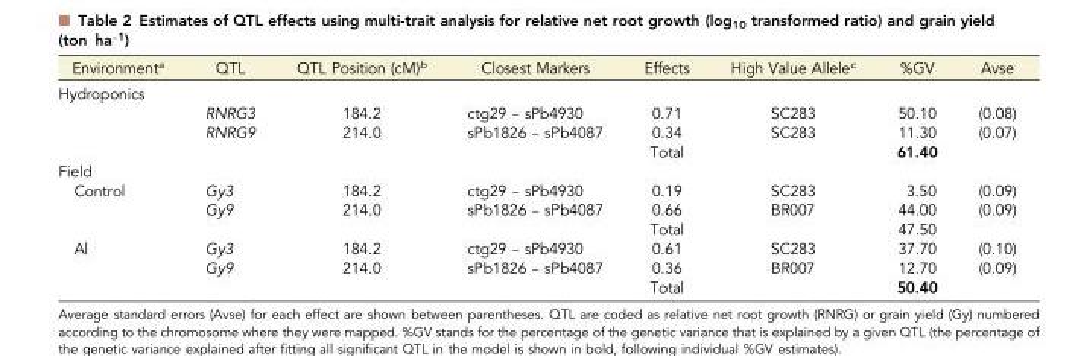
<table><thead><tr><td>Environment<sup>a</sup></td><td>QTL</td><td>QTL Position (cM)<sup>b</sup></td><td>Closest Markers</td><td>Effects</td><td>High Value Allele<sup>c</sup></td><td>%GV</td><td>Avse</td></tr></thead><tbody><tr><td colspan="8">Hydroponics</td></tr><tr><td></td><td>RNRG3</td><td>184.2</td><td>ctg29 – sPb4930</td><td>0.71</td><td>SC283</td><td>50.10</td><td>(0.08)</td></tr><tr><td></td><td>RNRG9</td><td>214.0</td><td>sPb1826 – sPb4087</td><td>0.34</td><td>SC283</td><td>11.30</td><td>(0.07)</td></tr><tr><td></td><td></td><td></td><td></td><td>Total</td><td></td><td>61.40</td><td></td></tr><tr><td colspan="8">Field</td></tr><tr><td rowspan="3">Control</td><td>Gy3</td><td>184.2</td><td>ctg29 – sPb4930</td><td>0.19</td><td>SC283</td><td>3.50</td><td>(0.09)</td></tr><tr><td>Gy9</td><td>214.0</td><td>sPb1826 – sPb4087</td><td>0.66</td><td>BR007</td><td>44.00</td><td>(0.09)</td></tr><tr><td></td><td></td><td></td><td>Total</td><td></td><td>47.50</td><td></td></tr><tr><td rowspan="3">Al</td><td>Gy3</td><td>184.2</td><td>ctg29 – sPb4930</td><td>0.61</td><td>SC283</td><td>37.70</td><td>(0.10)</td></tr><tr><td>Gy9</td><td>214.0</td><td>sPb1826 – sPb4087</td><td>0.36</td><td>BR007</td><td>12.70</td><td>(0.09)</td></tr><tr><td></td><td></td><td></td><td>Total</td><td></td><td>50.40</td><td></td></tr></tbody></table>